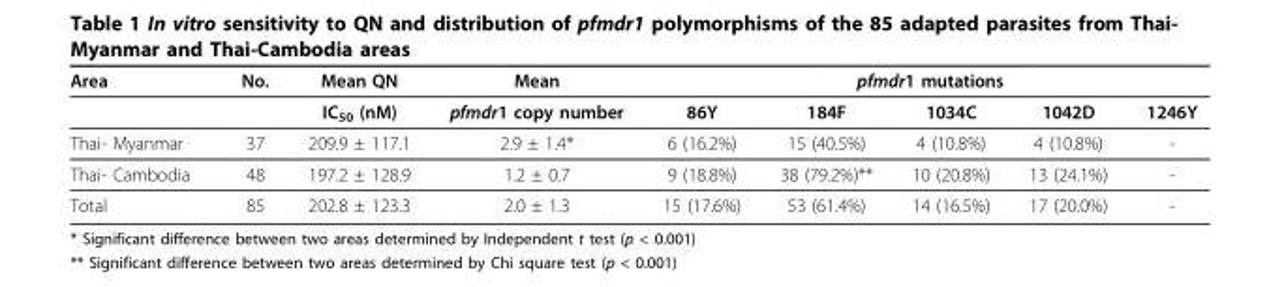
<table><thead><tr><td rowspan="2">Area</td><td rowspan="2">No.</td><td rowspan="2">Mean QN IC50 (nM)</td><td rowspan="2">Mean pfmdr1 copy number</td><td colspan="5">pfmdr1 mutations</td></tr><tr><td>86Y</td><td>184F</td><td>1034C</td><td>1042D</td><td>1246Y</td></tr></thead><tbody><tr><td>Thai- Myanmar</td><td>37</td><td>209.9 ± 117.1</td><td>2.9 ± 1.4*</td><td>6 (16.2%)</td><td>15 (40.5%)</td><td>4 (10.8%)</td><td>4 (10.8%)</td><td>-</td></tr><tr><td>Thai- Cambodia</td><td>48</td><td>197.2 ± 128.9</td><td>1.2 ± 0.7</td><td>9 (18.8%)</td><td>38 (79.2%)**</td><td>10 (20.8%)</td><td>13 (24.1%)</td><td>-</td></tr><tr><td>Total</td><td>85</td><td>202.8 ± 123.3</td><td>2.0 ± 1.3</td><td>15 (17.6%)</td><td>53 (61.4%)</td><td>14 (16.5%)</td><td>17 (20.0%)</td><td>-</td></tr></tbody></table>